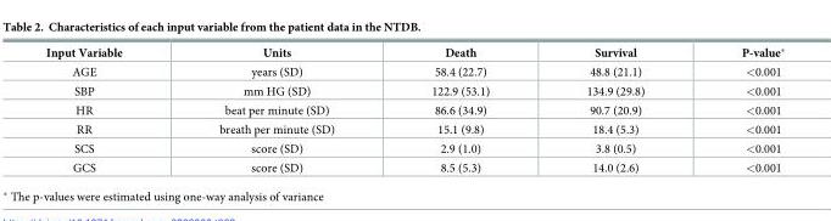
<table><thead><tr><td>Input Variable</td><td>Units</td><td>Death</td><td>Survival</td><td>P-value*</td></tr></thead><tbody><tr><td>AGE</td><td>years (SD)</td><td>58.4 (22.7)</td><td>48.8 (21.1)</td><td>&lt;0.001</td></tr><tr><td>SBP</td><td>mm HG (SD)</td><td>122.9 (53.1)</td><td>134.9 (29.8)</td><td>&lt;0.001</td></tr><tr><td>HR</td><td>beat per minute (SD)</td><td>86.6 (34.9)</td><td>90.7 (20.9)</td><td>&lt;0.001</td></tr><tr><td>RR</td><td>breath per minute (SD)</td><td>15.1 (9.8)</td><td>18.4 (5.3)</td><td>&lt;0.001</td></tr><tr><td>SCS</td><td>score (SD)</td><td>2.9 (1.0)</td><td>3.8 (0.5)</td><td>&lt;0.001</td></tr><tr><td>GCS</td><td>score (SD)</td><td>8.5 (5.3)</td><td>14.0 (2.6)</td><td>&lt;0.001</td></tr></tbody></table>